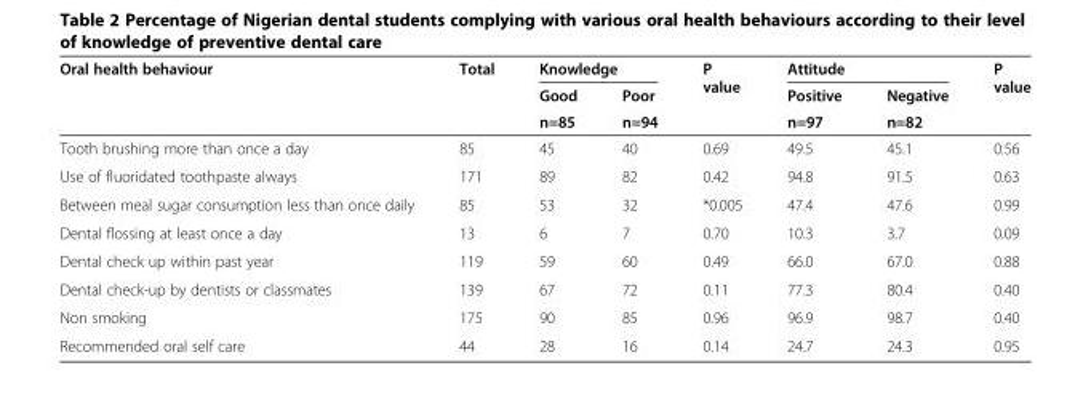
<table><thead><tr><td rowspan="3">Oral health behaviour</td><td rowspan="3">Total</td><td colspan="2">Knowledge</td><td rowspan="3">P value</td><td colspan="2">Attitude</td><td rowspan="3">P value</td></tr><tr><td rowspan="2">Good n=85</td><td rowspan="2">Poor n=94</td><td rowspan="2">Positive n=97</td><td rowspan="2">Negative n=82</td></tr><tr></tr></thead><tbody><tr><td>Tooth brushing more than once a day</td><td>85</td><td>45</td><td>40</td><td>0.69</td><td>49.5</td><td>45.1</td><td>0.56</td></tr><tr><td>Use of fluoridated toothpaste always</td><td>171</td><td>89</td><td>82</td><td>0.42</td><td>94.8</td><td>91.5</td><td>0.63</td></tr><tr><td>Between meal sugar consumption less than once daily</td><td>85</td><td>53</td><td>32</td><td>*0.005</td><td>47.4</td><td>47.6</td><td>0.99</td></tr><tr><td>Dental flossing at least once a day</td><td>13</td><td>6</td><td>7</td><td>0.70</td><td>10.3</td><td>3.7</td><td>0.09</td></tr><tr><td>Dental check up within past year</td><td>119</td><td>59</td><td>60</td><td>0.49</td><td>66.0</td><td>67.0</td><td>0.88</td></tr><tr><td>Dental check-up by dentists or classmates</td><td>139</td><td>67</td><td>72</td><td>0.11</td><td>77.3</td><td>80.4</td><td>0.40</td></tr><tr><td>Non smoking</td><td>175</td><td>90</td><td>85</td><td>0.96</td><td>96.9</td><td>98.7</td><td>0.40</td></tr><tr><td>Recommended oral self care</td><td>44</td><td>28</td><td>16</td><td>0.14</td><td>24.7</td><td>24.3</td><td>0.95</td></tr></tbody></table>